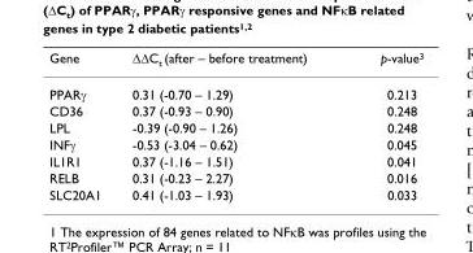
<table><thead><tr><td>Gene</td><td>ΔΔC<sub>t</sub> (after – before treatment)</td><td>p-value<sup>3</sup></td></tr></thead><tbody><tr><td>PPARγ</td><td>0.31 (-0.70 – 1.29)</td><td>0.213</td></tr><tr><td>CD36</td><td>0.37 (-0.93 – 0.90)</td><td>0.248</td></tr><tr><td>LPL</td><td>-0.39 (-0.90 – 1.26)</td><td>0.248</td></tr><tr><td>INFγ</td><td>-0.53 (-3.04 – 0.62)</td><td>0.045</td></tr><tr><td>IL1R1</td><td>0.37 (-1.16 – 1.51)</td><td>0.041</td></tr><tr><td>RELB</td><td>0.31 (-0.23 – 2.27)</td><td>0.016</td></tr><tr><td>SLC20A1</td><td>0.41 (-1.03 – 1.93)</td><td>0.033</td></tr></tbody></table>